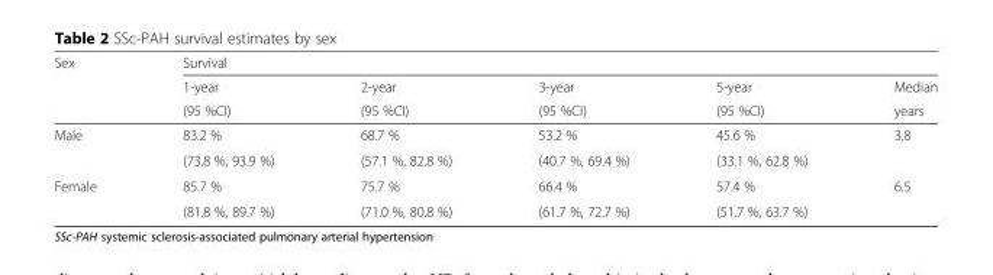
<table><thead><tr><td rowspan="3">Sex</td><td colspan="5">Survival</td></tr><tr><td rowspan="2">1-year (95 %CI)</td><td rowspan="2">2-year (95 %CI)</td><td rowspan="2">3-year (95 %CI)</td><td rowspan="2">5-year (95 %CI)</td><td rowspan="2">Median years</td></tr><tr></tr></thead><tbody><tr><td rowspan="2">Male</td><td>83.2 %</td><td>68.7 %</td><td>53.2 %</td><td>45.6 %</td><td rowspan="2">3.8</td></tr><tr><td>(73.8 %, 93.9 %)</td><td>(57.1 %, 82.8 %)</td><td>(40.7 %, 69.4 %)</td><td>(33.1 %, 62.8 %)</td></tr><tr><td rowspan="2">Female</td><td>85.7 %</td><td>75.7 %</td><td>66.4 %</td><td>57.4 %</td><td rowspan="2">6.5</td></tr><tr><td>(81.8 %, 89.7 %)</td><td>(71.0 %, 80.8 %)</td><td>(61.7 %, 72.7 %)</td><td>(51.7 %, 63.7 %)</td></tr></tbody></table>